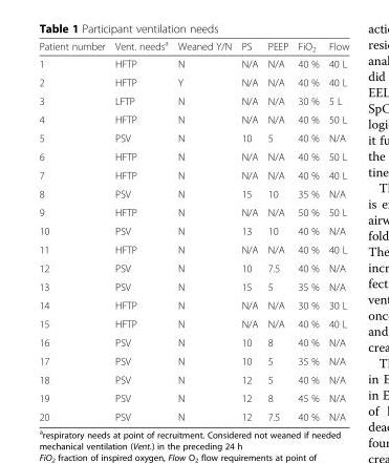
<table><thead><tr><td>Patient number</td><td>Vent. needs<sup>a</sup></td><td>Weaned Y/N</td><td>PS</td><td>PEEP</td><td>FiO<sub>2</sub></td><td>Flow</td></tr></thead><tbody><tr><td>1</td><td>HFTP</td><td>N</td><td>N/A</td><td>N/A</td><td>40 %</td><td>40 L</td></tr><tr><td>2</td><td>HFTP</td><td>Y</td><td>N/A</td><td>N/A</td><td>40 %</td><td>40 L</td></tr><tr><td>3</td><td>LFTP</td><td>N</td><td>N/A</td><td>N/A</td><td>30 %</td><td>5 L</td></tr><tr><td>4</td><td>HFTP</td><td>N</td><td>N/A</td><td>N/A</td><td>40 %</td><td>50 L</td></tr><tr><td>5</td><td>PSV</td><td>N</td><td>10</td><td>5</td><td>40 %</td><td>N/A</td></tr><tr><td>6</td><td>HFTP</td><td>N</td><td>N/A</td><td>N/A</td><td>40 %</td><td>50 L</td></tr><tr><td>7</td><td>HFTP</td><td>N</td><td>N/A</td><td>N/A</td><td>40 %</td><td>40 L</td></tr><tr><td>8</td><td>PSV</td><td>N</td><td>15</td><td>10</td><td>35 %</td><td>N/A</td></tr><tr><td>9</td><td>HFTP</td><td>N</td><td>N/A</td><td>N/A</td><td>50 %</td><td>50 L</td></tr><tr><td>10</td><td>PSV</td><td>N</td><td>13</td><td>10</td><td>40 %</td><td>N/A</td></tr><tr><td>11</td><td>HFTP</td><td>N</td><td>N/A</td><td>N/A</td><td>40 %</td><td>40 L</td></tr><tr><td>12</td><td>PSV</td><td>N</td><td>10</td><td>7.5</td><td>40 %</td><td>N/A</td></tr><tr><td>13</td><td>PSV</td><td>N</td><td>15</td><td>5</td><td>35 %</td><td>N/A</td></tr><tr><td>14</td><td>HFTP</td><td>N</td><td>N/A</td><td>N/A</td><td>30 %</td><td>30 L</td></tr><tr><td>15</td><td>HFTP</td><td>N</td><td>N/A</td><td>N/A</td><td>40 %</td><td>40 L</td></tr><tr><td>16</td><td>PSV</td><td>N</td><td>10</td><td>8</td><td>40 %</td><td>N/A</td></tr><tr><td>17</td><td>PSV</td><td>N</td><td>10</td><td>5</td><td>35 %</td><td>N/A</td></tr><tr><td>18</td><td>PSV</td><td>N</td><td>12</td><td>5</td><td>40 %</td><td>N/A</td></tr><tr><td>19</td><td>PSV</td><td>N</td><td>12</td><td>8</td><td>45 %</td><td>N/A</td></tr><tr><td>20</td><td>PSV</td><td>N</td><td>12</td><td>7.5</td><td>40 %</td><td>N/A</td></tr></tbody></table>